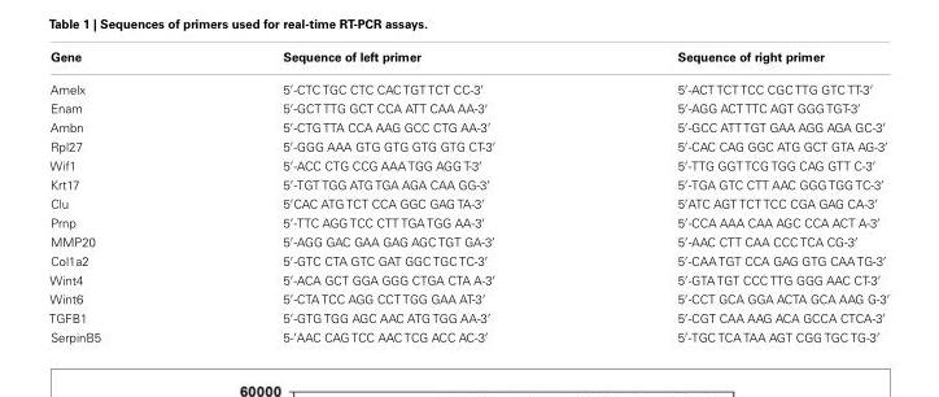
<table><thead><tr><td>Gene</td><td>Sequence of left primer</td><td>Sequence of right primer</td></tr></thead><tbody><tr><td>Amelx</td><td>5′-CTC TGC CTC CAC TGT TCT CC-3′</td><td>5′-ACT TCT TCC CGC TTG GTC TT-3′</td></tr><tr><td>Enam</td><td>5′-GCT TTG GCT CCA ATT CAA AA-3′</td><td>5′-AGG ACT TTC AGT GGG TGT-3′</td></tr><tr><td>Ambn</td><td>5′-CTG TTA CCA AAG GCC CTG AA-3′</td><td>5′-GCC ATT TGT GAA AGG AGA GC-3′</td></tr><tr><td>Rpl27</td><td>5′-GGG AAA GTG GTG GTG GTG CT-3′</td><td>5′-CAC CAG GGC ATG GCT GTA AG-3′</td></tr><tr><td>Wif1</td><td>5′-ACC CTG CCG AAA TGG AGG T-3′</td><td>5′-TTG GGT TCG TGG CAG GTT C-3′</td></tr><tr><td>Krt17</td><td>5′-TGT TGG ATG TGA AGA CAA GG-3′</td><td>5′-TGA GTC CTT AAC GGG TGG TC-3′</td></tr><tr><td>Clu</td><td>5′CAC ATG TCT CCA GGC GAG TA-3′</td><td>5′ATC AGT TCT TCC CGA GAG CA-3′</td></tr><tr><td>Prnp</td><td>5′-TTC AGG TCC CTT TGA TGG AA-3′</td><td>5′-CCA AAA CAA AGC CCA ACT A-3′</td></tr><tr><td>MMP20</td><td>5′-AGG GAC GAA GAG AGC TGT GA-3′</td><td>5′-AAC CTT CAA CCC TCA CG-3′</td></tr><tr><td>Col1a2</td><td>5′-GTC CTA GTC GAT GGC TGC TC-3′</td><td>5′-CAA TGT CCA GAG GTG CAA TG-3′</td></tr><tr><td>Wint4</td><td>5′-ACA GCT GGA GGG CTGA CTA A-3′</td><td>5′-GTA TGT CCC TTG GGG AAC CT-3′</td></tr><tr><td>Wint6</td><td>5′-CTA TCC AGG CCT TGG GAA AT-3′</td><td>5′-CCT GCA GGA ACTA GCA AAG G-3′</td></tr><tr><td>TGFB1</td><td>5′-GTG TGG AGC AAC ATG TGG AA-3′</td><td>5′-CGT CAA AAG ACA GCCA CTCA-3′</td></tr><tr><td>SerpinB5</td><td>5-′AAC CAG TCC AAC TCG ACC AC-3′</td><td>5′-TGC TCA TAA AGT CGG TGC TG-3′</td></tr></tbody></table>